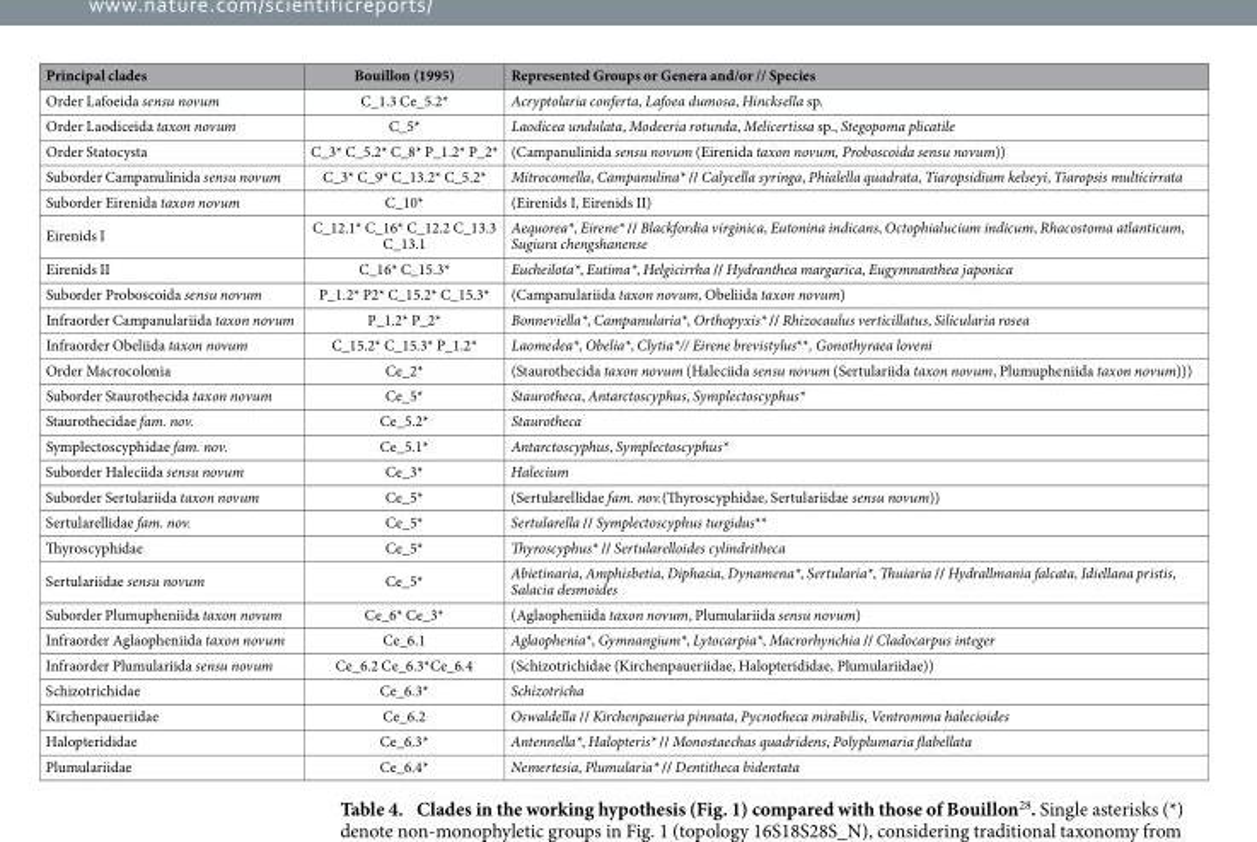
<table><thead><tr><td>Principal clades</td><td>Bouillon (1995)</td><td>Represented Groups or Genera and/or // Species</td></tr></thead><tbody><tr><td>Order Lafoeida sensu novum</td><td>C_1.3 Ce_5.2*</td><td>Acryptolaria conferta, Lafoea dumosa, Hincksella sp.</td></tr><tr><td>Order Laodiceida taxon novum</td><td>C_5*</td><td>Laodicea undulata, Modeeria rotunda, Melicertissa sp., Stegopoma plicatile</td></tr><tr><td>Order Statocysta</td><td>C_3* C_5.2* C_8* P_1.2* P_2*</td><td>(Campanulinida sensu novum (Eirenida taxon novum, Proboscoida sensu novum))</td></tr><tr><td>Suborder Campanulinida sensu novum</td><td>C_3* C_9* C_13.2* C_5.2*</td><td>Mitrocomella, Campanulina* // Calycella syringa, Phialella quadrata, Tiaropsidium kelseyi, Tiaropsis multicirrata</td></tr><tr><td>Suborder Eirenida taxon novum</td><td>C_10*</td><td>(Eirenids I, Eirenids II)</td></tr><tr><td>Eirenids I</td><td>C_12.1* C_16* C_12.2 C_13.3 C_13.1</td><td>Aequorea*, Eirene* // Blackfordia virginica, Eutonina indicans, Octophialucium indicum, Rhacostoma atlanticum, Sugiura chengshanense</td></tr><tr><td>Eirenids II</td><td>C_16* C_15.3*</td><td>Eucheilota*, Eutima*, Helgicirrha // Hydranthea margarica, Eugymnanthea japonica</td></tr><tr><td>Suborder Proboscoida sensu novum</td><td>P_1.2* P2* C_15.2* C_15.3*</td><td>(Campanulariida taxon novum, Obeliida taxon novum)</td></tr><tr><td>Infraorder Campanulariida taxon novum</td><td>P_1.2* P_2*</td><td>Bonneviella*, Campanularia*, Orthopyxis* // Rhizocaulus verticillatus, Silicularia rosea</td></tr><tr><td>Infraorder Obeliida taxon novum</td><td>C_15.2* C_15.3* P_1.2*</td><td>Laomedea*, Obelia*, Clytia*// Eirene brevistylus**, Gonothyraea loveni</td></tr><tr><td>Order Macrocolonia</td><td>Ce_2*</td><td>(Staurothecida taxon novum (Haleciida sensu novum (Sertulariida taxon novum, Plumupheniida taxon novum)))</td></tr><tr><td>Suborder Staurothecida taxon novum</td><td>Ce_5*</td><td>Staurotheca, Antarctoscyphus, Symplectoscyphus*</td></tr><tr><td>Staurothecidae fam. nov.</td><td>Ce_5.2*</td><td>Staurotheca</td></tr><tr><td>Symplectoscyphidae fam. nov.</td><td>Ce_5.1*</td><td>Antarctoscyphus, Symplectoscyphus*</td></tr><tr><td>Suborder Haleciida sensu novum</td><td>Ce_3*</td><td>Halecium</td></tr><tr><td>Suborder Sertulariida taxon novum</td><td>Ce_5*</td><td>(Sertularellidae fam. nov.(Thyroscyphidae, Sertulariidae sensu novum))</td></tr><tr><td>Sertularellidae fam. nov.</td><td>Ce_5*</td><td>Sertularella // Symplectoscyphus turgidus**</td></tr><tr><td>Thyroscyphidae</td><td>Ce_5*</td><td>Thyroscyphus* // Sertularelloides cylindritheca</td></tr><tr><td>Sertulariidae sensu novum</td><td>Ce_5*</td><td>Abietinaria, Amphisbetia, Diphasia, Dynamena*, Sertularia*, Thuiaria // Hydrallmania falcata, Idiellana pristis, Salacia desmoides</td></tr><tr><td>Suborder Plumupheniida taxon novum</td><td>Ce_6* Ce_3*</td><td>(Aglaopheniida taxon novum, Plumulariida sensu novum)</td></tr><tr><td>Infraorder Aglaopheniida taxon novum</td><td>Ce_6.1</td><td>Aglaophenia*, Gymnangium*, Lytocarpia*, Macrorhynchia // Cladocarpus integer</td></tr><tr><td>Infraorder Plumulariida sensu novum</td><td>Ce_6.2 Ce_6.3*Ce_6.4</td><td>(Schizotrichidae (Kirchenpaueriidae, Halopterididae, Plumulariidae))</td></tr><tr><td>Schizotrichidae</td><td>Ce_6.3*</td><td>Schizotricha</td></tr><tr><td>Kirchenpaueriidae</td><td>Ce_6.2</td><td>Oswaldella // Kirchenpaueria pinnata, Pycnotheca mirabilis, Ventromma halecioides</td></tr><tr><td>Halopterididae</td><td>Ce_6.3*</td><td>Antennella*, Halopteris* // Monostaechas quadridens, Polyplumaria flabellata</td></tr><tr><td>Plumulariidae</td><td>Ce_6.4*</td><td>Nemertesia, Plumularia* // Dentitheca bidentata</td></tr></tbody></table>